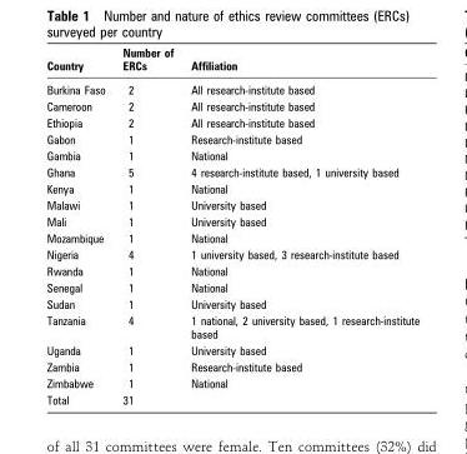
<table><thead><tr><td>Country</td><td>Number of ERCs</td><td>Affiliation</td></tr></thead><tbody><tr><td>Burkina Faso</td><td>2</td><td>All research-institute based</td></tr><tr><td>Cameroon</td><td>2</td><td>All research-institute based</td></tr><tr><td>Ethiopia</td><td>2</td><td>All research-institute based</td></tr><tr><td>Gabon</td><td>1</td><td>Research-institute based</td></tr><tr><td>Gambia</td><td>1</td><td>National</td></tr><tr><td>Ghana</td><td>5</td><td>4 research-institute based, 1 university based</td></tr><tr><td>Kenya</td><td>1</td><td>National</td></tr><tr><td>Malawi</td><td>1</td><td>University based</td></tr><tr><td>Mali</td><td>1</td><td>University based</td></tr><tr><td>Mozambique</td><td>1</td><td>National</td></tr><tr><td>Nigeria</td><td>4</td><td>1 university based, 3 research-institute based</td></tr><tr><td>Rwanda</td><td>1</td><td>National</td></tr><tr><td>Senegal</td><td>1</td><td>National</td></tr><tr><td>Sudan</td><td>1</td><td>University based</td></tr><tr><td>Tanzania</td><td>4</td><td>1 national, 2 university based, 1 research-institute based</td></tr><tr><td>Uganda</td><td>1</td><td>University based</td></tr><tr><td>Zambia</td><td>1</td><td>Research-institute based</td></tr><tr><td>Zimbabwe</td><td>1</td><td>National</td></tr><tr><td>Total</td><td>31</td><td></td></tr></tbody></table>